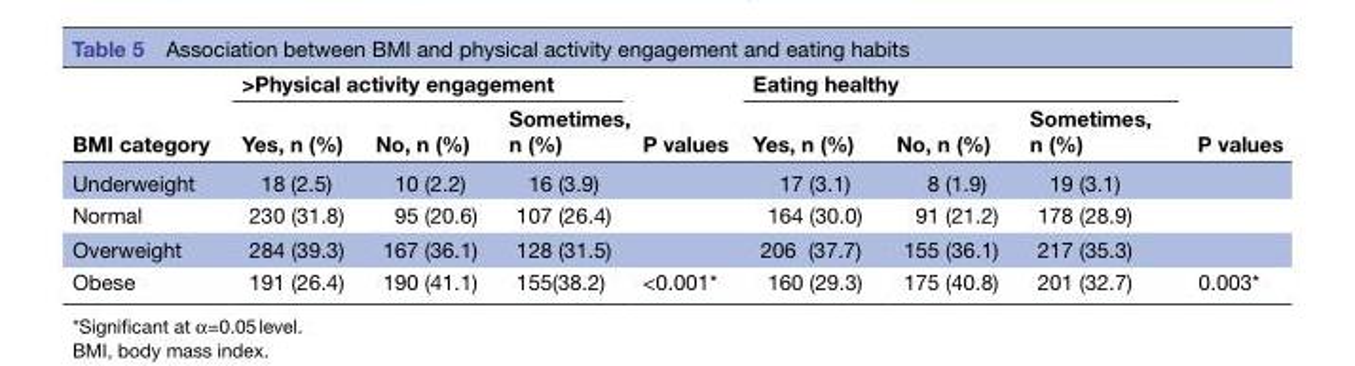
<table><thead><tr><td rowspan="2">BMI category</td><td colspan="3">&gt;Physical activity engagement</td><td rowspan="2">P values</td><td colspan="3">Eating healthy</td><td rowspan="2">P values</td></tr><tr><td>Yes, n (%)</td><td>No, n (%)</td><td>Sometimes, n (%)</td><td>Yes, n (%)</td><td>No, n (%)</td><td>Sometimes, n (%)</td></tr></thead><tbody><tr><td>Underweight</td><td>18 (2.5)</td><td>10 (2.2)</td><td>16 (3.9)</td><td></td><td>17 (3.1)</td><td>8 (1.9)</td><td>19 (3.1)</td><td></td></tr><tr><td>Normal</td><td>230 (31.8)</td><td>95 (20.6)</td><td>107 (26.4)</td><td></td><td>164 (30.0)</td><td>91 (21.2)</td><td>178 (28.9)</td><td></td></tr><tr><td>Overweight</td><td>284 (39.3)</td><td>167 (36.1)</td><td>128 (31.5)</td><td></td><td>206 (37.7)</td><td>155 (36.1)</td><td>217 (35.3)</td><td></td></tr><tr><td>Obese</td><td>191 (26.4)</td><td>190 (41.1)</td><td>155(38.2)</td><td>&lt;0.001*</td><td>160 (29.3)</td><td>175 (40.8)</td><td>201 (32.7)</td><td>0.003*</td></tr></tbody></table>